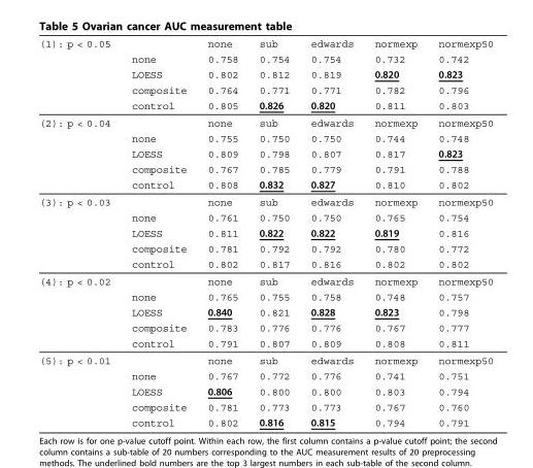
<table><thead><tr><td rowspan="5">(1): p &lt; 0.05</td><td rowspan="5">none LOESS composite control</td><td rowspan="5">none 0.758 0.802 0.764 0.805</td><td rowspan="5">sub 0.754 0.812 0.771 0.826</td><td rowspan="5">edwards 0.754 0.819 0.771 0.820</td><td rowspan="5">normexp 0.732 0.820 0.782 0.811</td><td rowspan="5">normexp50 0.742 0.823 0.796 0.803</td></tr><tr></tr><tr></tr><tr></tr><tr></tr></thead><tbody><tr><td rowspan="5">(2): p &lt; 0.04</td><td></td><td>none</td><td>sub</td><td>edwards</td><td>normexp</td><td>normexp50</td></tr><tr><td>none</td><td>0.755</td><td>0.750</td><td>0.750</td><td>0.744</td><td>0.748</td></tr><tr><td>LOESS</td><td>0.809</td><td>0.798</td><td>0.807</td><td>0.817</td><td>0.823</td></tr><tr><td>composite</td><td>0.767</td><td>0.785</td><td>0.779</td><td>0.791</td><td>0.788</td></tr><tr><td>control</td><td>0.808</td><td>0.832</td><td>0.827</td><td>0.810</td><td>0.802</td></tr><tr><td rowspan="5">(3): p &lt; 0.03</td><td></td><td>none</td><td>sub</td><td>edwards</td><td>normexp</td><td>normexp50</td></tr><tr><td>none</td><td>0.761</td><td>0.750</td><td>0.750</td><td>0.765</td><td>0.754</td></tr><tr><td>LOESS</td><td>0.811</td><td>0.822</td><td>0.822</td><td>0.819</td><td>0.816</td></tr><tr><td>composite</td><td>0.781</td><td>0.792</td><td>0.792</td><td>0.780</td><td>0.772</td></tr><tr><td>control</td><td>0.802</td><td>0.817</td><td>0.816</td><td>0.802</td><td>0.802</td></tr><tr><td rowspan="5">(4): p &lt; 0.02</td><td></td><td>none</td><td>sub</td><td>edwards</td><td>normexp</td><td>normexp50</td></tr><tr><td>none</td><td>0.765</td><td>0.755</td><td>0.758</td><td>0.748</td><td>0.757</td></tr><tr><td>LOESS</td><td>0.840</td><td>0.821</td><td>0.828</td><td>0.823</td><td>0.798</td></tr><tr><td>composite</td><td>0.783</td><td>0.776</td><td>0.776</td><td>0.767</td><td>0.777</td></tr><tr><td>control</td><td>0.791</td><td>0.807</td><td>0.809</td><td>0.808</td><td>0.811</td></tr><tr><td rowspan="5">(5): p &lt; 0.01</td><td></td><td>none</td><td>sub</td><td>edwards</td><td>normexp</td><td>normexp50</td></tr><tr><td>none</td><td>0.767</td><td>0.772</td><td>0.776</td><td>0.741</td><td>0.751</td></tr><tr><td>LOESS</td><td>0.806</td><td>0.800</td><td>0.800</td><td>0.803</td><td>0.794</td></tr><tr><td>composite</td><td>0.781</td><td>0.773</td><td>0.773</td><td>0.767</td><td>0.760</td></tr><tr><td>control</td><td>0.802</td><td>0.816</td><td>0.815</td><td>0.794</td><td>0.791</td></tr></tbody></table>